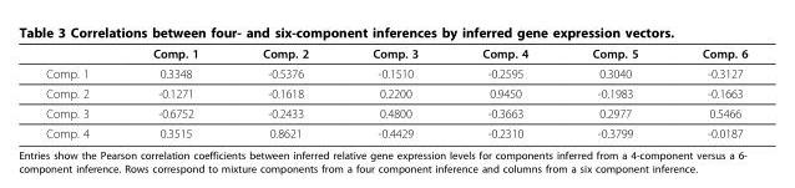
<table><thead><tr><td></td><td>Comp. 1</td><td>Comp. 2</td><td>Comp. 3</td><td>Comp. 4</td><td>Comp. 5</td><td>Comp. 6</td></tr></thead><tbody><tr><td>Comp. 1</td><td>0.3348</td><td>-0.5376</td><td>-0.1510</td><td>-0.2595</td><td>0.3040</td><td>-0.3127</td></tr><tr><td>Comp. 2</td><td>-0.1271</td><td>-0.1618</td><td>0.2200</td><td>0.9450</td><td>-0.1983</td><td>-0.1663</td></tr><tr><td>Comp. 3</td><td>-0.6752</td><td>-0.2433</td><td>0.4800</td><td>-0.3663</td><td>0.2977</td><td>0.5466</td></tr><tr><td>Comp. 4</td><td>0.3515</td><td>0.8621</td><td>-0.4429</td><td>-0.2310</td><td>-0.3799</td><td>-0.0187</td></tr></tbody></table>